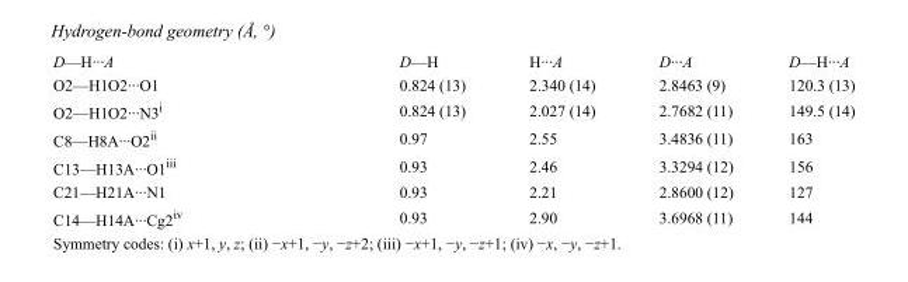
<table><tbody><tr><td>D—H···A</td><td>D—H</td><td>H···A</td><td>D···A</td><td>D—H···A</td></tr><tr><td>O2—H1O2···O1</td><td>0.824 (13)</td><td>2.340 (14)</td><td>2.8463 (9)</td><td>120.3 (13)</td></tr><tr><td>O2—H1O2···N3<sup>i</sup></td><td>0.824 (13)</td><td>2.027 (14)</td><td>2.7682 (11)</td><td>149.5 (14)</td></tr><tr><td>C8—H8A···O2<sup>ii</sup></td><td>0.97</td><td>2.55</td><td>3.4836 (11)</td><td>163</td></tr><tr><td>C13—H13A···O1<sup>iii</sup></td><td>0.93</td><td>2.46</td><td>3.3294 (12)</td><td>156</td></tr><tr><td>C21—H21A···N1</td><td>0.93</td><td>2.21</td><td>2.8600 (12)</td><td>127</td></tr><tr><td>C14—H14A···Cg2<sup>iv</sup></td><td>0.93</td><td>2.90</td><td>3.6968 (11)</td><td>144</td></tr></tbody></table>